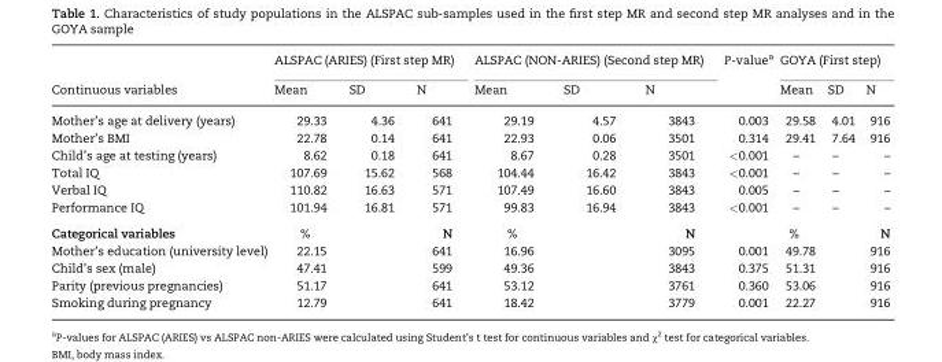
<table><thead><tr><td rowspan="2">Continuous variables</td><td colspan="3">ALSPAC (ARIES) (First step MR)</td><td colspan="3">ALSPAC (NON-ARIES) (Second step MR)</td><td rowspan="2">P-value<sup>a</sup></td><td colspan="3">GOYA (First step)</td></tr><tr><td>Mean</td><td>SD</td><td>N</td><td>Mean</td><td>SD</td><td>N</td><td>Mean</td><td>SD</td><td>N</td></tr></thead><tbody><tr><td>Mother’s age at delivery (years)</td><td>29.33</td><td>4.36</td><td>641</td><td>29.19</td><td>4.57</td><td>3843</td><td>0.003</td><td>29.58</td><td>4.01</td><td>916</td></tr><tr><td>Mother’s BMI</td><td>22.78</td><td>0.14</td><td>641</td><td>22.93</td><td>0.06</td><td>3501</td><td>0.314</td><td>29.41</td><td>7.64</td><td>916</td></tr><tr><td>Child’s age at testing (years)</td><td>8.62</td><td>0.18</td><td>641</td><td>8.67</td><td>0.28</td><td>3501</td><td>&lt;0.001</td><td>–</td><td>–</td><td>–</td></tr><tr><td>Total IQ</td><td>107.69</td><td>15.62</td><td>568</td><td>104.44</td><td>16.42</td><td>3843</td><td>&lt;0.001</td><td>–</td><td>–</td><td>–</td></tr><tr><td>Verbal IQ</td><td>110.82</td><td>16.63</td><td>571</td><td>107.49</td><td>16.60</td><td>3843</td><td>0.005</td><td>–</td><td>–</td><td>–</td></tr><tr><td>Performance IQ</td><td>101.94</td><td>16.81</td><td>571</td><td>99.83</td><td>16.94</td><td>3843</td><td>&lt;0.001</td><td>–</td><td>–</td><td>–</td></tr><tr><td>Categorical variables</td><td>%</td><td></td><td>N</td><td>%</td><td></td><td>N</td><td></td><td>%</td><td></td><td>N</td></tr><tr><td>Mother’s education (university level)</td><td>22.15</td><td></td><td>641</td><td>16.96</td><td></td><td>3095</td><td>0.001</td><td>49.78</td><td></td><td>916</td></tr><tr><td>Child’s sex (male)</td><td>47.41</td><td></td><td>599</td><td>49.36</td><td></td><td>3843</td><td>0.375</td><td>51.31</td><td></td><td>916</td></tr><tr><td>Parity (previous pregnancies)</td><td>51.17</td><td></td><td>641</td><td>53.12</td><td></td><td>3761</td><td>0.360</td><td>53.06</td><td></td><td>916</td></tr><tr><td>Smoking during pregnancy</td><td>12.79</td><td></td><td>641</td><td>18.42</td><td></td><td>3779</td><td>0.001</td><td>22.27</td><td></td><td>916</td></tr></tbody></table>